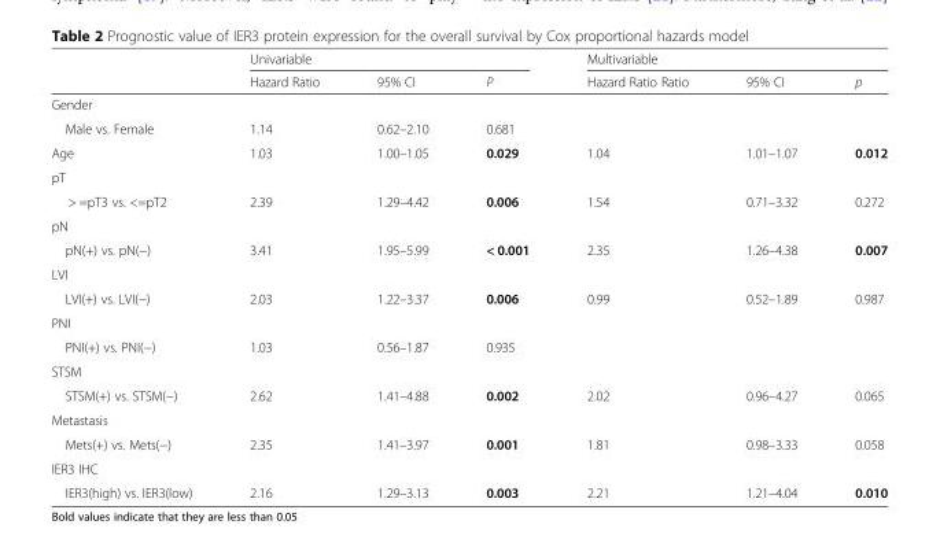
<table><thead><tr><td rowspan="2"></td><td colspan="3">Univariable</td><td colspan="3">Multivariable</td></tr><tr><td>Hazard Ratio</td><td>95% CI</td><td>P</td><td>Hazard Ratio Ratio</td><td>95% CI</td><td>p</td></tr></thead><tbody><tr><td colspan="7">Gender</td></tr><tr><td>Male vs. Female</td><td>1.14</td><td>0.62–2.10</td><td>0.681</td><td></td><td></td><td></td></tr><tr><td>Age</td><td>1.03</td><td>1.00–1.05</td><td>0.029</td><td>1.04</td><td>1.01–1.07</td><td>0.012</td></tr><tr><td colspan="7">pT</td></tr><tr><td>&gt; =pT3 vs. &lt;=pT2</td><td>2.39</td><td>1.29–4.42</td><td>0.006</td><td>1.54</td><td>0.71–3.32</td><td>0.272</td></tr><tr><td colspan="7">pN</td></tr><tr><td>pN(+) vs. pN(−)</td><td>3.41</td><td>1.95–5.99</td><td>&lt; 0.001</td><td>2.35</td><td>1.26–4.38</td><td>0.007</td></tr><tr><td colspan="7">LVI</td></tr><tr><td>LVI(+) vs. LVI(−)</td><td>2.03</td><td>1.22–3.37</td><td>0.006</td><td>0.99</td><td>0.52–1.89</td><td>0.987</td></tr><tr><td colspan="7">PNI</td></tr><tr><td>PNI(+) vs. PNI(−)</td><td>1.03</td><td>0.56–1.87</td><td>0.935</td><td></td><td></td><td></td></tr><tr><td colspan="7">STSM</td></tr><tr><td>STSM(+) vs. STSM(−)</td><td>2.62</td><td>1.41–4.88</td><td>0.002</td><td>2.02</td><td>0.96–4.27</td><td>0.065</td></tr><tr><td colspan="7">Metastasis</td></tr><tr><td>Mets(+) vs. Mets(−)</td><td>2.35</td><td>1.41–3.97</td><td>0.001</td><td>1.81</td><td>0.98–3.33</td><td>0.058</td></tr><tr><td colspan="7">IER3 IHC</td></tr><tr><td>IER3(high) vs. IER3(low)</td><td>2.16</td><td>1.29–3.13</td><td>0.003</td><td>2.21</td><td>1.21–4.04</td><td>0.010</td></tr></tbody></table>